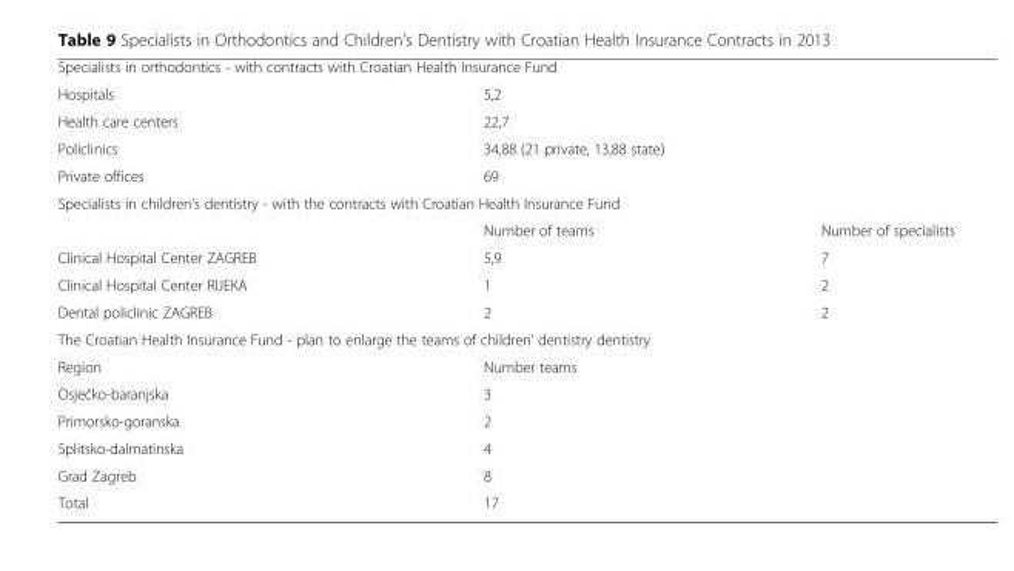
<table><tbody><tr><td colspan="3">Specialists in orthodontics - with contracts with Croatian Health Insurance Fund</td></tr><tr><td>Hospitals</td><td colspan="2">5,2</td></tr><tr><td>Health care centers</td><td colspan="2">22,7</td></tr><tr><td>Policlinics</td><td colspan="2">34,88 (21 private, 13,88 state)</td></tr><tr><td>Private offices</td><td colspan="2">69</td></tr><tr><td colspan="3">Specialists in children’s dentistry - with the contracts with Croatian Health Insurance Fund</td></tr><tr><td></td><td>Number of teams</td><td>Number of specialists</td></tr><tr><td>Clinical Hospital Center ZAGREB</td><td>5,9</td><td>7</td></tr><tr><td>Clinical Hospital Center RIJEKA</td><td>1</td><td>2</td></tr><tr><td>Dental policlinic ZAGREB</td><td>2</td><td>2</td></tr><tr><td colspan="3">The Croatian Health Insurance Fund - plan to enlarge the teams of children’ dentistry dentistry</td></tr><tr><td>Region</td><td colspan="2">Number teams</td></tr><tr><td>Osječko-baranjska</td><td colspan="2">3</td></tr><tr><td>Primorsko-goranska</td><td colspan="2">2</td></tr><tr><td>Splitsko-dalmatinska</td><td colspan="2">4</td></tr><tr><td>Grad Zagreb</td><td colspan="2">8</td></tr><tr><td>Total</td><td colspan="2">17</td></tr></tbody></table>